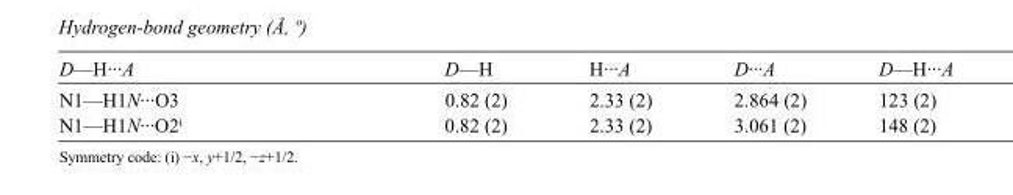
<table><tbody><tr><td>D—H···A</td><td>D—H</td><td>H···A</td><td>D···A</td><td>D—H···A</td></tr><tr><td>N1—H1N···O3</td><td>0.82 (2)</td><td>2.33 (2)</td><td>2.864 (2)</td><td>123 (2)</td></tr><tr><td>N1—H1N···O2<sup>i</sup></td><td>0.82 (2)</td><td>2.33 (2)</td><td>3.061 (2)</td><td>148 (2)</td></tr></tbody></table>